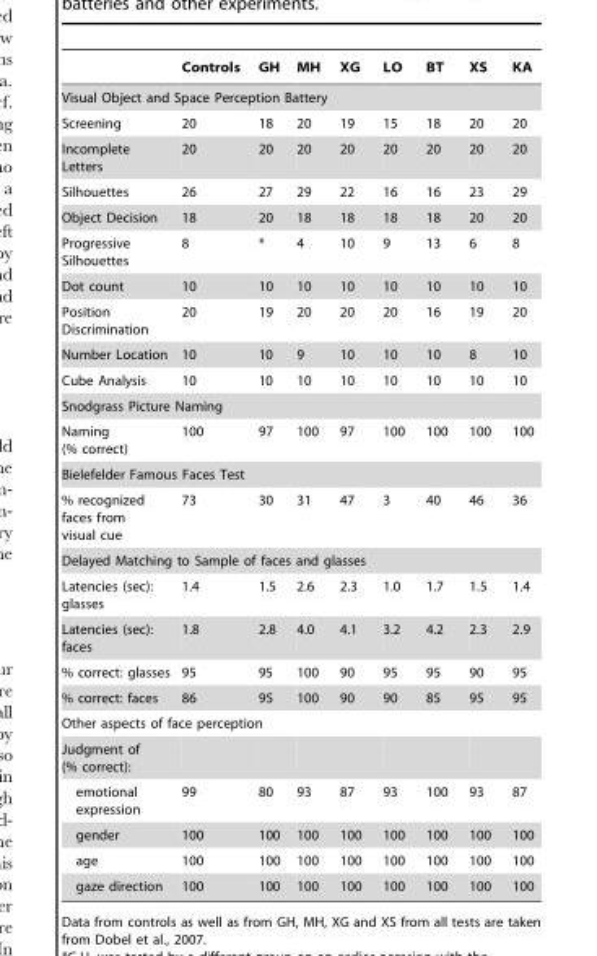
<table><thead><tr><td></td><td>Controls</td><td>GH</td><td>MH</td><td>XG</td><td>LO</td><td>BT</td><td>XS</td><td>KA</td></tr></thead><tbody><tr><td colspan="9">Visual Object and Space Perception Battery</td></tr><tr><td>Screening</td><td>20</td><td>18</td><td>20</td><td>19</td><td>15</td><td>18</td><td>20</td><td>20</td></tr><tr><td>Incomplete Letters</td><td>20</td><td>20</td><td>20</td><td>20</td><td>20</td><td>20</td><td>20</td><td>20</td></tr><tr><td>Silhouettes</td><td>26</td><td>27</td><td>29</td><td>22</td><td>16</td><td>16</td><td>23</td><td>29</td></tr><tr><td>Object Decision</td><td>18</td><td>20</td><td>18</td><td>18</td><td>18</td><td>18</td><td>20</td><td>20</td></tr><tr><td>Progressive Silhouettes</td><td>8</td><td>*</td><td>4</td><td>10</td><td>9</td><td>13</td><td>6</td><td>8</td></tr><tr><td>Dot count</td><td>10</td><td>10</td><td>10</td><td>10</td><td>10</td><td>10</td><td>10</td><td>10</td></tr><tr><td>Position Discrimination</td><td>20</td><td>19</td><td>20</td><td>20</td><td>20</td><td>16</td><td>19</td><td>20</td></tr><tr><td>Number Location</td><td>10</td><td>10</td><td>9</td><td>10</td><td>10</td><td>10</td><td>8</td><td>10</td></tr><tr><td>Cube Analysis</td><td>10</td><td>10</td><td>10</td><td>10</td><td>10</td><td>10</td><td>10</td><td>10</td></tr><tr><td colspan="9">Snodgrass Picture Naming</td></tr><tr><td>Naming (% correct)</td><td>100</td><td>97</td><td>100</td><td>97</td><td>100</td><td>100</td><td>100</td><td>100</td></tr><tr><td colspan="9">Bielefelder Famous Faces Test</td></tr><tr><td>% recognized faces from visual cue</td><td>73</td><td>30</td><td>31</td><td>47</td><td>3</td><td>40</td><td>46</td><td>36</td></tr><tr><td colspan="9">Delayed Matching to Sample of faces and glasses</td></tr><tr><td>Latencies (sec): glasses</td><td>1.4</td><td>1.5</td><td>2.6</td><td>2.3</td><td>1.0</td><td>1.7</td><td>1.5</td><td>1.4</td></tr><tr><td>Latencies (sec): faces</td><td>1.8</td><td>2.8</td><td>4.0</td><td>4.1</td><td>3.2</td><td>4.2</td><td>2.3</td><td>2.9</td></tr><tr><td>% correct: glasses</td><td>95</td><td>95</td><td>100</td><td>90</td><td>95</td><td>95</td><td>90</td><td>95</td></tr><tr><td>% correct: faces</td><td>86</td><td>95</td><td>100</td><td>90</td><td>90</td><td>85</td><td>95</td><td>95</td></tr><tr><td colspan="9">Other aspects of face perception</td></tr><tr><td colspan="9">Judgment of (% correct):</td></tr><tr><td>emotional expression</td><td>99</td><td>80</td><td>93</td><td>87</td><td>93</td><td>100</td><td>93</td><td>87</td></tr><tr><td>gender</td><td>100</td><td>100</td><td>100</td><td>100</td><td>100</td><td>100</td><td>100</td><td>100</td></tr><tr><td>age</td><td>100</td><td>100</td><td>100</td><td>100</td><td>100</td><td>100</td><td>100</td><td>100</td></tr><tr><td>gaze direction</td><td>100</td><td>100</td><td>100</td><td>100</td><td>100</td><td>100</td><td>100</td><td>100</td></tr></tbody></table>